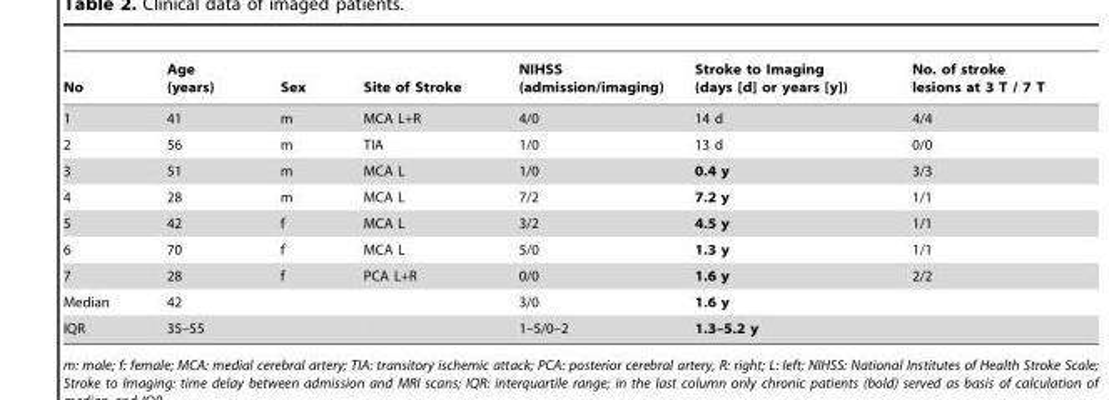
<table><thead><tr><td>No</td><td>Age (years)</td><td>Sex</td><td>Site of Stroke</td><td>NIHSS (admission/imaging)</td><td>Stroke to Imaging (days [d] or years [y])</td><td>No. of stroke lesions at 3 T / 7 T</td></tr></thead><tbody><tr><td>1</td><td>41</td><td>m</td><td>MCA L+R</td><td>4/0</td><td>14 d</td><td>4/4</td></tr><tr><td>2</td><td>56</td><td>m</td><td>TIA</td><td>1/0</td><td>13 d</td><td>0/0</td></tr><tr><td>3</td><td>51</td><td>m</td><td>MCA L</td><td>1/0</td><td>0.4 y</td><td>3/3</td></tr><tr><td>4</td><td>28</td><td>m</td><td>MCA L</td><td>7/2</td><td>7.2 y</td><td>1/1</td></tr><tr><td>5</td><td>42</td><td>f</td><td>MCA L</td><td>3/2</td><td>4.5 y</td><td>1/1</td></tr><tr><td>6</td><td>70</td><td>f</td><td>MCA L</td><td>5/0</td><td>1.3 y</td><td>1/1</td></tr><tr><td>7</td><td>28</td><td>f</td><td>PCA L+R</td><td>0/0</td><td>1.6 y</td><td>2/2</td></tr><tr><td>Median</td><td>42</td><td></td><td></td><td>3/0</td><td>1.6 y</td><td></td></tr><tr><td>IQR</td><td>35–55</td><td></td><td></td><td>1–5/0–2</td><td>1.3–5.2 y</td><td></td></tr></tbody></table>